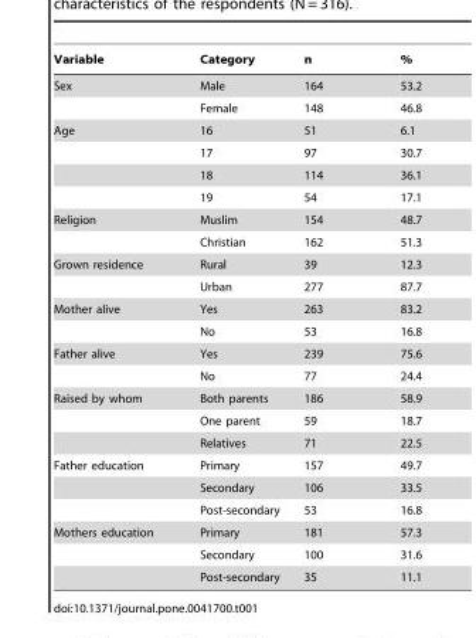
<table><thead><tr><td>Variable</td><td>Category</td><td>n</td><td>%</td></tr></thead><tbody><tr><td rowspan="2">Sex</td><td>Male</td><td>164</td><td>53.2</td></tr><tr><td>Female</td><td>148</td><td>46.8</td></tr><tr><td rowspan="4">Age</td><td>16</td><td>51</td><td>6.1</td></tr><tr><td>17</td><td>97</td><td>30.7</td></tr><tr><td>18</td><td>114</td><td>36.1</td></tr><tr><td>19</td><td>54</td><td>17.1</td></tr><tr><td rowspan="2">Religion</td><td>Muslim</td><td>154</td><td>48.7</td></tr><tr><td>Christian</td><td>162</td><td>51.3</td></tr><tr><td rowspan="2">Grown residence</td><td>Rural</td><td>39</td><td>12.3</td></tr><tr><td>Urban</td><td>277</td><td>87.7</td></tr><tr><td rowspan="2">Mother alive</td><td>Yes</td><td>263</td><td>83.2</td></tr><tr><td>No</td><td>53</td><td>16.8</td></tr><tr><td rowspan="2">Father alive</td><td>Yes</td><td>239</td><td>75.6</td></tr><tr><td>No</td><td>77</td><td>24.4</td></tr><tr><td rowspan="3">Raised by whom</td><td>Both parents</td><td>186</td><td>58.9</td></tr><tr><td>One parent</td><td>59</td><td>18.7</td></tr><tr><td>Relatives</td><td>71</td><td>22.5</td></tr><tr><td rowspan="3">Father education</td><td>Primary</td><td>157</td><td>49.7</td></tr><tr><td>Secondary</td><td>106</td><td>33.5</td></tr><tr><td>Post-secondary</td><td>53</td><td>16.8</td></tr><tr><td rowspan="3">Mothers education</td><td>Primary</td><td>181</td><td>57.3</td></tr><tr><td>Secondary</td><td>100</td><td>31.6</td></tr><tr><td>Post-secondary</td><td>35</td><td>11.1</td></tr></tbody></table>